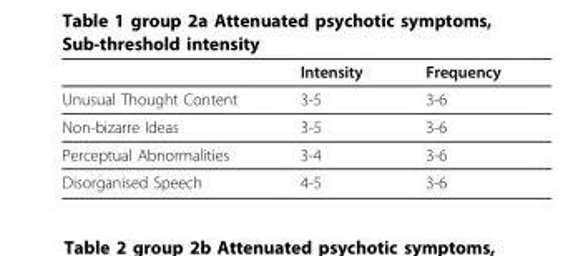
<table><thead><tr><td></td><td>Intensity</td><td>Frequency</td></tr></thead><tbody><tr><td>Unusual Thought Content</td><td>3-5</td><td>3-6</td></tr><tr><td>Non-bizarre Ideas</td><td>3-5</td><td>3-6</td></tr><tr><td>Perceptual Abnormalities</td><td>3-4</td><td>3-6</td></tr><tr><td>Disorganised Speech</td><td>4-5</td><td>3-6</td></tr></tbody></table>